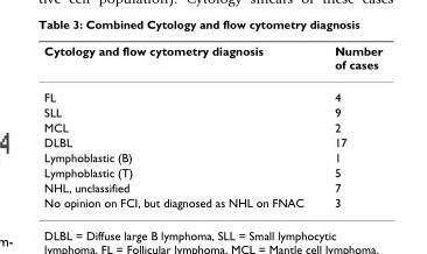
<table><thead><tr><td>Cytology and flow cytometry diagnosis</td><td>Number of cases</td></tr></thead><tbody><tr><td>FL</td><td>4</td></tr><tr><td>SLL</td><td>9</td></tr><tr><td>MCL</td><td>2</td></tr><tr><td>DLBL</td><td>17</td></tr><tr><td>Lymphoblastic (B)</td><td>1</td></tr><tr><td>Lymphoblastic (T)</td><td>5</td></tr><tr><td>NHL, unclassified</td><td>7</td></tr><tr><td>No opinion on FCI, but diagnosed as NHL on FNAC</td><td>3</td></tr></tbody></table>